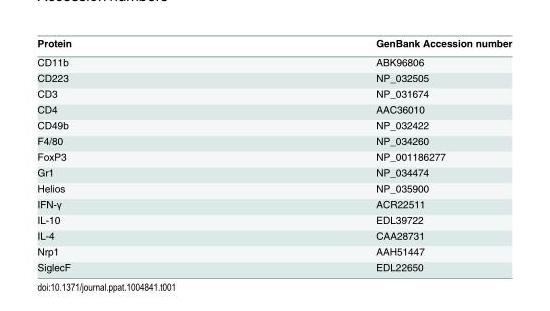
<table><thead><tr><td>Protein</td><td>GenBank Accession number</td></tr></thead><tbody><tr><td>CD11b</td><td>ABK96806</td></tr><tr><td>CD223</td><td>NP_032505</td></tr><tr><td>CD3</td><td>NP_031674</td></tr><tr><td>CD4</td><td>AAC36010</td></tr><tr><td>CD49b</td><td>NP_032422</td></tr><tr><td>F4/80</td><td>NP_034260</td></tr><tr><td>FoxP3</td><td>NP_001186277</td></tr><tr><td>Gr1</td><td>NP_034474</td></tr><tr><td>Helios</td><td>NP_035900</td></tr><tr><td>IFN-γ</td><td>ACR22511</td></tr><tr><td>IL-10</td><td>EDL39722</td></tr><tr><td>IL-4</td><td>CAA28731</td></tr><tr><td>Nrp1</td><td>AAH51447</td></tr><tr><td>SiglecF</td><td>EDL22650</td></tr></tbody></table>